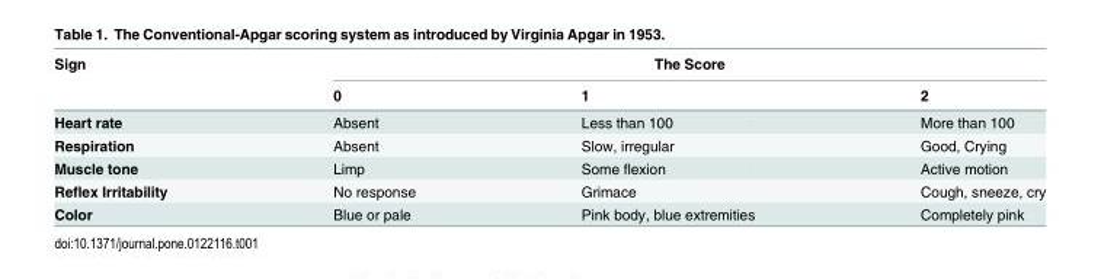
<table><thead><tr><td rowspan="2">Sign</td><td colspan="3">The Score</td></tr><tr><td>0</td><td>1</td><td>2</td></tr></thead><tbody><tr><td>Heart rate</td><td>Absent</td><td>Less than 100</td><td>More than 100</td></tr><tr><td>Respiration</td><td>Absent</td><td>Slow, irregular</td><td>Good, Crying</td></tr><tr><td>Muscle tone</td><td>Limp</td><td>Some flexion</td><td>Active motion</td></tr><tr><td>Reflex Irritability</td><td>No response</td><td>Grimace</td><td>Cough, sneeze, cry</td></tr><tr><td>Color</td><td>Blue or pale</td><td>Pink body, blue extremities</td><td>Completely pink</td></tr></tbody></table>